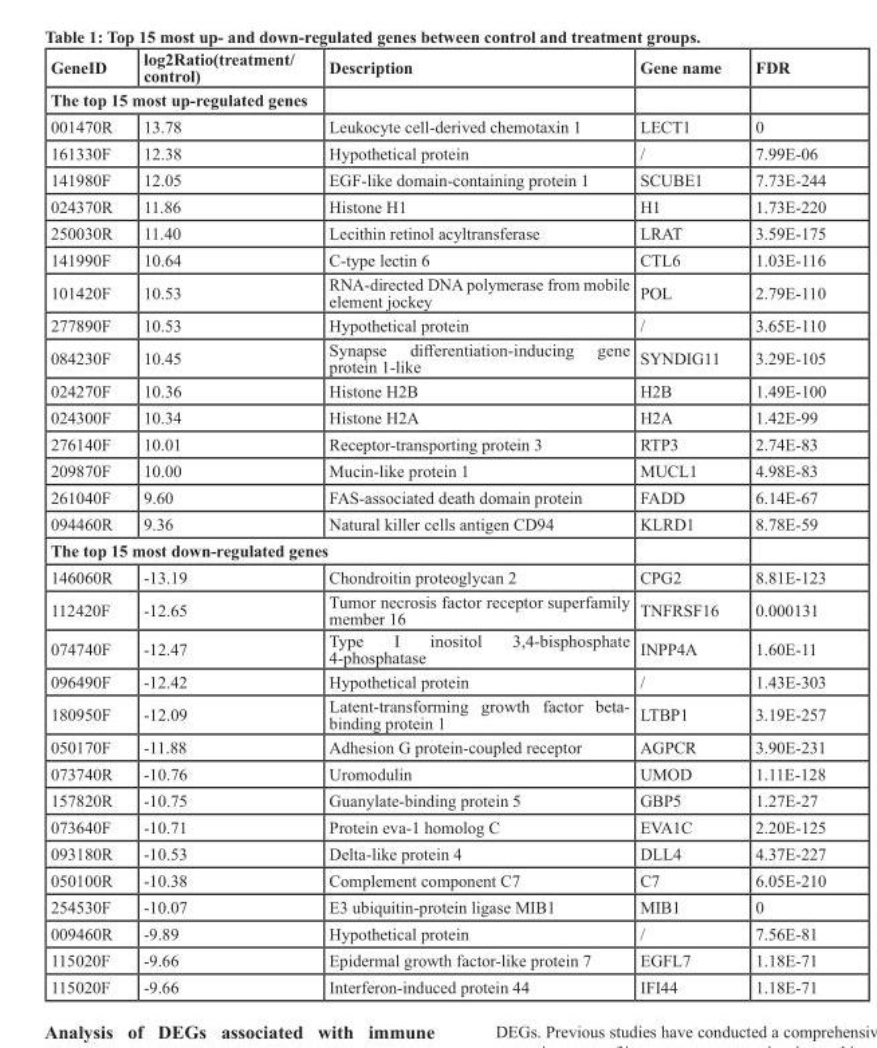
<table><thead><tr><td>GeneID</td><td>log2Ratio(treatment/ control)</td><td>Description</td><td>Gene name</td><td>FDR</td></tr></thead><tbody><tr><td colspan="5">The top 15 most up-regulated genes</td></tr><tr><td>001470R</td><td>13.78</td><td>Leukocyte cell-derived chemotaxin 1</td><td>LECT1</td><td>0</td></tr><tr><td>161330F</td><td>12.38</td><td>Hypothetical protein</td><td>/</td><td>7.99E-06</td></tr><tr><td>141980F</td><td>12.05</td><td>EGF-like domain-containing protein 1</td><td>SCUBE1</td><td>7.73E-244</td></tr><tr><td>024370R</td><td>11.86</td><td>Histone H1</td><td>H1</td><td>1.73E-220</td></tr><tr><td>250030R</td><td>11.40</td><td>Lecithin retinol acyltransferase</td><td>LRAT</td><td>3.59E-175</td></tr><tr><td>141990F</td><td>10.64</td><td>C-type lectin 6</td><td>CTL6</td><td>1.03E-116</td></tr><tr><td>101420F</td><td>10.53</td><td>RNA-directed DNA polymerase from mobile element jockey</td><td>POL</td><td>2.79E-110</td></tr><tr><td>277890F</td><td>10.53</td><td>Hypothetical protein</td><td>/</td><td>3.65E-110</td></tr><tr><td>084230F</td><td>10.45</td><td>Synapse differentiation-inducing gene protein 1-like</td><td>SYNDIG11</td><td>3.29E-105</td></tr><tr><td>024270F</td><td>10.36</td><td>Histone H2B</td><td>H2B</td><td>1.49E-100</td></tr><tr><td>024300F</td><td>10.34</td><td>Histone H2A</td><td>H2A</td><td>1.42E-99</td></tr><tr><td>276140F</td><td>10.01</td><td>Receptor-transporting protein 3</td><td>RTP3</td><td>2.74E-83</td></tr><tr><td>209870F</td><td>10.00</td><td>Mucin-like protein 1</td><td>MUCL1</td><td>4.98E-83</td></tr><tr><td>261040F</td><td>9.60</td><td>FAS-associated death domain protein</td><td>FADD</td><td>6.14E-67</td></tr><tr><td>094460R</td><td>9.36</td><td>Natural killer cells antigen CD94</td><td>KLRD1</td><td>8.78E-59</td></tr><tr><td colspan="5">The top 15 most down-regulated genes</td></tr><tr><td>146060R</td><td>-13.19</td><td>Chondroitin proteoglycan 2</td><td>CPG2</td><td>8.81E-123</td></tr><tr><td>112420F</td><td>-12.65</td><td>Tumor necrosis factor receptor superfamily member 16</td><td>TNFRSF16</td><td>0.000131</td></tr><tr><td>074740F</td><td>-12.47</td><td>Type I inositol 3,4-bisphosphate 4-phosphatase</td><td>INPP4A</td><td>1.60E-11</td></tr><tr><td>096490F</td><td>-12.42</td><td>Hypothetical protein</td><td>/</td><td>1.43E-303</td></tr><tr><td>180950F</td><td>-12.09</td><td>Latent-transforming growth factor beta- binding protein 1</td><td>LTBP1</td><td>3.19E-257</td></tr><tr><td>050170F</td><td>-11.88</td><td>Adhesion G protein-coupled receptor</td><td>AGPCR</td><td>3.90E-231</td></tr><tr><td>073740R</td><td>-10.76</td><td>Uromodulin</td><td>UMOD</td><td>1.11E-128</td></tr><tr><td>157820R</td><td>-10.75</td><td>Guanylate-binding protein 5</td><td>GBP5</td><td>1.27E-27</td></tr><tr><td>073640F</td><td>-10.71</td><td>Protein eva-1 homolog C</td><td>EVA1C</td><td>2.20E-125</td></tr><tr><td>093180R</td><td>-10.53</td><td>Delta-like protein 4</td><td>DLL4</td><td>4.37E-227</td></tr><tr><td>050100R</td><td>-10.38</td><td>Complement component C7</td><td>C7</td><td>6.05E-210</td></tr><tr><td>254530F</td><td>-10.07</td><td>E3 ubiquitin-protein ligase MIB1</td><td>MIB1</td><td>0</td></tr><tr><td>009460R</td><td>-9.89</td><td>Hypothetical protein</td><td>/</td><td>7.56E-81</td></tr><tr><td>115020F</td><td>-9.66</td><td>Epidermal growth factor-like protein 7</td><td>EGFL7</td><td>1.18E-71</td></tr><tr><td>115020F</td><td>-9.66</td><td>Interferon-induced protein 44</td><td>IFI44</td><td>1.18E-71</td></tr></tbody></table>